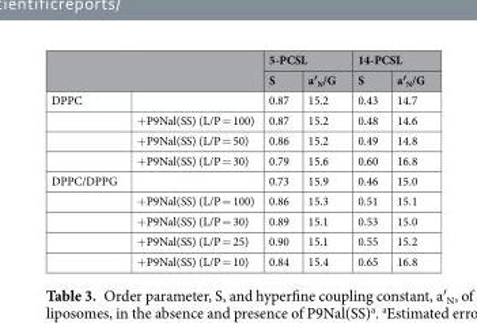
<table><thead><tr><td rowspan="2"></td><td rowspan="2"></td><td colspan="2">5-PCSL</td><td colspan="2">14-PCSL</td></tr><tr><td>S</td><td>a′<sub>N</sub>/G</td><td>S</td><td>a′<sub>N</sub>/G</td></tr></thead><tbody><tr><td rowspan="4">DPPC</td><td></td><td>0.87</td><td>15.2</td><td>0.43</td><td>14.7</td></tr><tr><td>+P9Nal(SS) (L/P = 100)</td><td>0.87</td><td>15.2</td><td>0.48</td><td>14.6</td></tr><tr><td>+P9Nal(SS) (L/P = 50)</td><td>0.86</td><td>15.2</td><td>0.49</td><td>14.8</td></tr><tr><td>+P9Nal(SS) (L/P = 30)</td><td>0.79</td><td>15.6</td><td>0.60</td><td>16.8</td></tr><tr><td rowspan="5">DPPC/DPPG</td><td></td><td>0.73</td><td>15.9</td><td>0.46</td><td>15.0</td></tr><tr><td>+P9Nal(SS) (L/P = 100)</td><td>0.86</td><td>15.3</td><td>0.51</td><td>15.1</td></tr><tr><td>+P9Nal(SS) (L/P = 30)</td><td>0.89</td><td>15.1</td><td>0.53</td><td>15.0</td></tr><tr><td>+P9Nal(SS) (L/P = 25)</td><td>0.90</td><td>15.1</td><td>0.55</td><td>15.2</td></tr><tr><td>+P9Nal(SS) (L/P = 10)</td><td>0.84</td><td>15.4</td><td>0.65</td><td>16.8</td></tr></tbody></table>